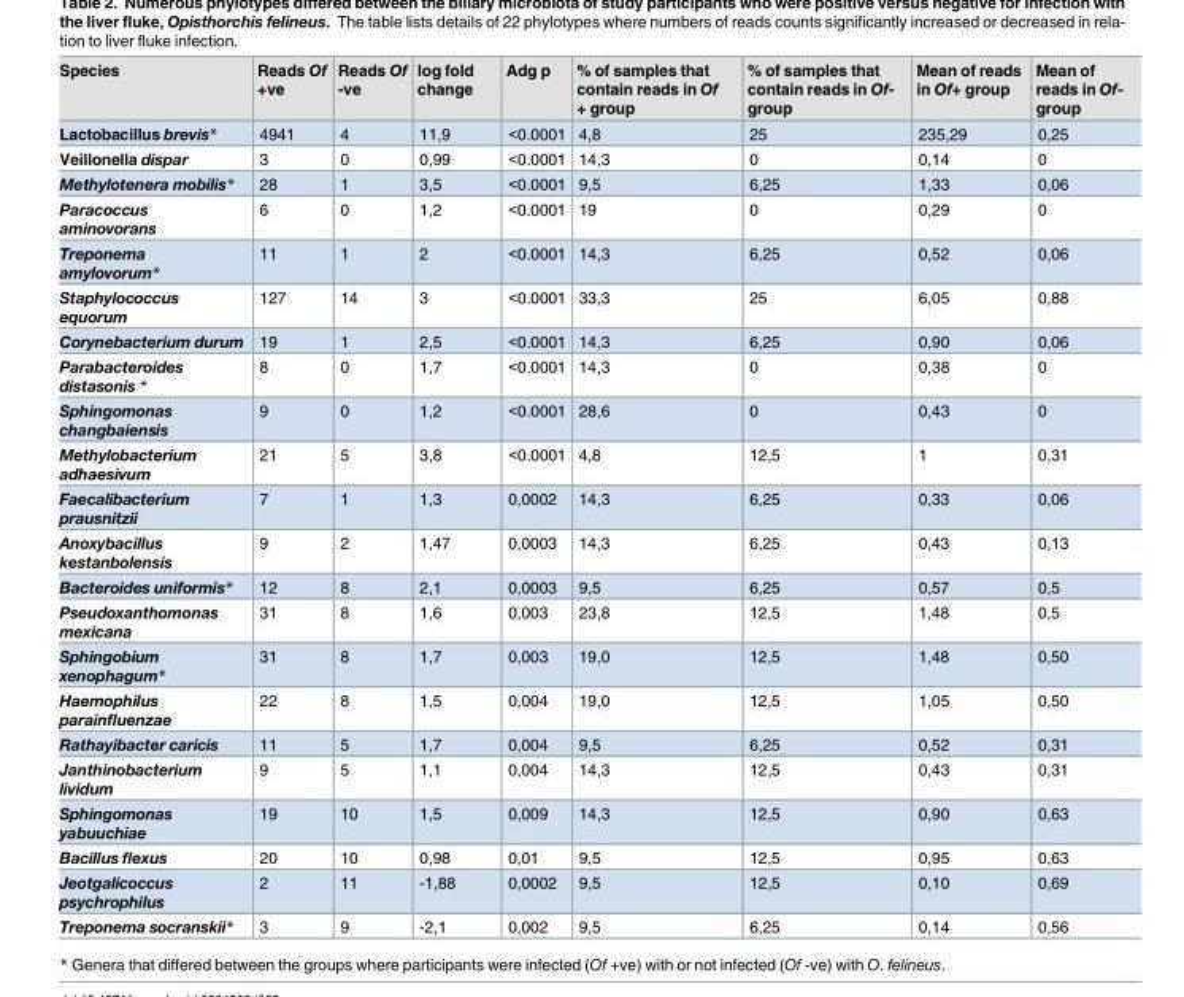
<table><thead><tr><td>Species</td><td>Reads Of +ve</td><td>Reads Of -ve</td><td>log fold change</td><td>Adg p</td><td>% of samples that contain reads in Of + group</td><td>% of samples that contain reads in Of- group</td><td>Mean of reads in Of+ group</td><td>Mean of reads in Of- group</td></tr></thead><tbody><tr><td>Lactobacillus brevis*</td><td>4941</td><td>4</td><td>11,9</td><td>&lt;0.0001</td><td>4,8</td><td>25</td><td>235,29</td><td>0,25</td></tr><tr><td>Veillonella dispar</td><td>3</td><td>0</td><td>0,99</td><td>&lt;0.0001</td><td>14,3</td><td>0</td><td>0,14</td><td>0</td></tr><tr><td>Methylotenera mobilis*</td><td>28</td><td>1</td><td>3,5</td><td>&lt;0.0001</td><td>9,5</td><td>6,25</td><td>1,33</td><td>0,06</td></tr><tr><td>Paracoccus aminovorans</td><td>6</td><td>0</td><td>1,2</td><td>&lt;0.0001</td><td>19</td><td>0</td><td>0,29</td><td>0</td></tr><tr><td>Treponema amylovorum*</td><td>11</td><td>1</td><td>2</td><td>&lt;0.0001</td><td>14,3</td><td>6,25</td><td>0,52</td><td>0,06</td></tr><tr><td>Staphylococcus equorum</td><td>127</td><td>14</td><td>3</td><td>&lt;0.0001</td><td>33,3</td><td>25</td><td>6,05</td><td>0,88</td></tr><tr><td>Corynebacterium durum</td><td>19</td><td>1</td><td>2,5</td><td>&lt;0.0001</td><td>14,3</td><td>6,25</td><td>0,90</td><td>0,06</td></tr><tr><td>Parabacteroides distasonis *</td><td>8</td><td>0</td><td>1,7</td><td>&lt;0.0001</td><td>14,3</td><td>0</td><td>0,38</td><td>0</td></tr><tr><td>Sphingomonas changbaiensis</td><td>9</td><td>0</td><td>1,2</td><td>&lt;0.0001</td><td>28,6</td><td>0</td><td>0,43</td><td>0</td></tr><tr><td>Methylobacterium adhaesivum</td><td>21</td><td>5</td><td>3,8</td><td>&lt;0.0001</td><td>4,8</td><td>12,5</td><td>1</td><td>0,31</td></tr><tr><td>Faecalibacterium prausnitzii</td><td>7</td><td>1</td><td>1,3</td><td>0,0002</td><td>14,3</td><td>6,25</td><td>0,33</td><td>0,06</td></tr><tr><td>Anoxybacillus kestanbolensis</td><td>9</td><td>2</td><td>1,47</td><td>0,0003</td><td>14,3</td><td>6,25</td><td>0,43</td><td>0,13</td></tr><tr><td>Bacteroides uniformis*</td><td>12</td><td>8</td><td>2,1</td><td>0,0003</td><td>9,5</td><td>6,25</td><td>0,57</td><td>0,5</td></tr><tr><td>Pseudoxanthomonas mexicana</td><td>31</td><td>8</td><td>1,6</td><td>0,003</td><td>23,8</td><td>12,5</td><td>1,48</td><td>0,5</td></tr><tr><td>Sphingobium xenophagum*</td><td>31</td><td>8</td><td>1,7</td><td>0,003</td><td>19,0</td><td>12,5</td><td>1,48</td><td>0,50</td></tr><tr><td>Haemophilus parainfluenzae</td><td>22</td><td>8</td><td>1,5</td><td>0,004</td><td>19,0</td><td>12,5</td><td>1,05</td><td>0,50</td></tr><tr><td>Rathayibacter caricis</td><td>11</td><td>5</td><td>1,7</td><td>0,004</td><td>9,5</td><td>6,25</td><td>0,52</td><td>0,31</td></tr><tr><td>Janthinobacterium lividum</td><td>9</td><td>5</td><td>1,1</td><td>0,004</td><td>14,3</td><td>12,5</td><td>0,43</td><td>0,31</td></tr><tr><td>Sphingomonas yabuuchiae</td><td>19</td><td>10</td><td>1,5</td><td>0,009</td><td>14,3</td><td>12,5</td><td>0,90</td><td>0,63</td></tr><tr><td>Bacillus flexus</td><td>20</td><td>10</td><td>0,98</td><td>0,01</td><td>9,5</td><td>12,5</td><td>0,95</td><td>0,63</td></tr><tr><td>Jeotgalicoccus psychrophilus</td><td>2</td><td>11</td><td>-1,88</td><td>0,0002</td><td>9,5</td><td>12,5</td><td>0,10</td><td>0,69</td></tr><tr><td>Treponema socranskii*</td><td>3</td><td>9</td><td>-2,1</td><td>0,002</td><td>9,5</td><td>6,25</td><td>0,14</td><td>0,56</td></tr></tbody></table>